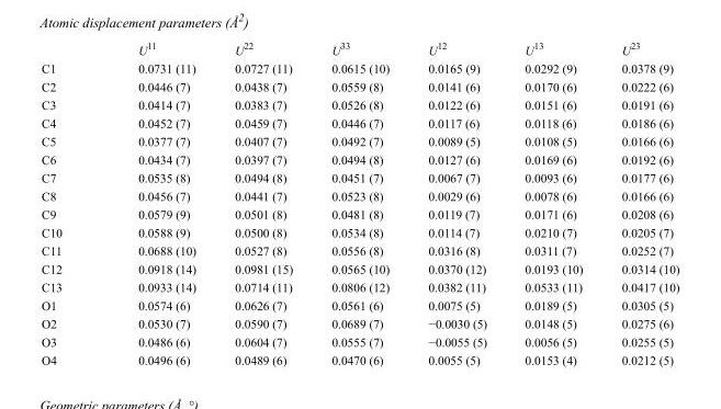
<table><thead><tr><td></td><td>U<sup>11</sup></td><td>U<sup>22</sup></td><td>U<sup>33</sup></td><td>U<sup>12</sup></td><td>U<sup>13</sup></td><td>U<sup>23</sup></td></tr></thead><tbody><tr><td>C1</td><td>0.0731 (11)</td><td>0.0727 (11)</td><td>0.0615 (10)</td><td>0.0165 (9)</td><td>0.0292 (9)</td><td>0.0378 (9)</td></tr><tr><td>C2</td><td>0.0446 (7)</td><td>0.0438 (7)</td><td>0.0559 (8)</td><td>0.0141 (6)</td><td>0.0170 (6)</td><td>0.0222 (6)</td></tr><tr><td>C3</td><td>0.0414 (7)</td><td>0.0383 (7)</td><td>0.0526 (8)</td><td>0.0122 (6)</td><td>0.0151 (6)</td><td>0.0191 (6)</td></tr><tr><td>C4</td><td>0.0452 (7)</td><td>0.0459 (7)</td><td>0.0446 (7)</td><td>0.0117 (6)</td><td>0.0118 (6)</td><td>0.0186 (6)</td></tr><tr><td>C5</td><td>0.0377 (7)</td><td>0.0407 (7)</td><td>0.0492 (7)</td><td>0.0089 (5)</td><td>0.0108 (5)</td><td>0.0166 (6)</td></tr><tr><td>C6</td><td>0.0434 (7)</td><td>0.0397 (7)</td><td>0.0494 (8)</td><td>0.0127 (6)</td><td>0.0169 (6)</td><td>0.0192 (6)</td></tr><tr><td>C7</td><td>0.0535 (8)</td><td>0.0494 (8)</td><td>0.0451 (7)</td><td>0.0067 (7)</td><td>0.0093 (6)</td><td>0.0177 (6)</td></tr><tr><td>C8</td><td>0.0456 (7)</td><td>0.0441 (7)</td><td>0.0523 (8)</td><td>0.0029 (6)</td><td>0.0078 (6)</td><td>0.0166 (6)</td></tr><tr><td>C9</td><td>0.0579 (9)</td><td>0.0501 (8)</td><td>0.0481 (8)</td><td>0.0119 (7)</td><td>0.0171 (6)</td><td>0.0208 (6)</td></tr><tr><td>C10</td><td>0.0588 (9)</td><td>0.0500 (8)</td><td>0.0534 (8)</td><td>0.0114 (7)</td><td>0.0210 (7)</td><td>0.0205 (7)</td></tr><tr><td>C11</td><td>0.0688 (10)</td><td>0.0527 (8)</td><td>0.0556 (8)</td><td>0.0316 (8)</td><td>0.0311 (7)</td><td>0.0252 (7)</td></tr><tr><td>C12</td><td>0.0918 (14)</td><td>0.0981 (15)</td><td>0.0565 (10)</td><td>0.0370 (12)</td><td>0.0193 (10)</td><td>0.0314 (10)</td></tr><tr><td>C13</td><td>0.0933 (14)</td><td>0.0714 (11)</td><td>0.0806 (12)</td><td>0.0382 (11)</td><td>0.0533 (11)</td><td>0.0417 (10)</td></tr><tr><td>O1</td><td>0.0574 (6)</td><td>0.0626 (7)</td><td>0.0561 (6)</td><td>0.0075 (5)</td><td>0.0189 (5)</td><td>0.0305 (5)</td></tr><tr><td>O2</td><td>0.0530 (7)</td><td>0.0590 (7)</td><td>0.0689 (7)</td><td>−0.0030 (5)</td><td>0.0148 (5)</td><td>0.0275 (6)</td></tr><tr><td>O3</td><td>0.0486 (6)</td><td>0.0604 (7)</td><td>0.0555 (7)</td><td>−0.0055 (5)</td><td>0.0056 (5)</td><td>0.0255 (5)</td></tr><tr><td>O4</td><td>0.0496 (6)</td><td>0.0489 (6)</td><td>0.0470 (6)</td><td>0.0055 (5)</td><td>0.0153 (4)</td><td>0.0212 (5)</td></tr></tbody></table>